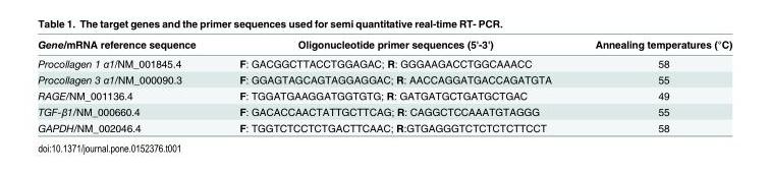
<table><thead><tr><td>Gene/mRNA reference sequence</td><td>Oligonucleotide primer sequences (5&#x27;-3&#x27;)</td><td>Annealing temperatures (°C)</td></tr></thead><tbody><tr><td>Procollagen 1 α1/NM_001845.4</td><td>F: GACGGCTTACCTGGAGAC; R: GGGAAGACCTGGCAAACC</td><td>58</td></tr><tr><td>Procollagen 3 α1/NM_000090.3</td><td>F: GGAGTAGCAGTAGGAGGAC; R: AACCAGGATGACCAGATGTA</td><td>55</td></tr><tr><td>RAGE/NM_001136.4</td><td>F: TGGATGAAGGATGGTGTG; R: GATGATGCTGATGCTGAC</td><td>49</td></tr><tr><td>TGF-β1/NM_000660.4</td><td>F: GACACCAACTATTGCTTCAG; R: CAGGCTCCAAATGTAGGG</td><td>55</td></tr><tr><td>GAPDH/NM_002046.4</td><td>F: TGGTCTCCTCTGACTTCAAC; R:GTGAGGGTCTCTCTCTTCCT</td><td>58</td></tr></tbody></table>